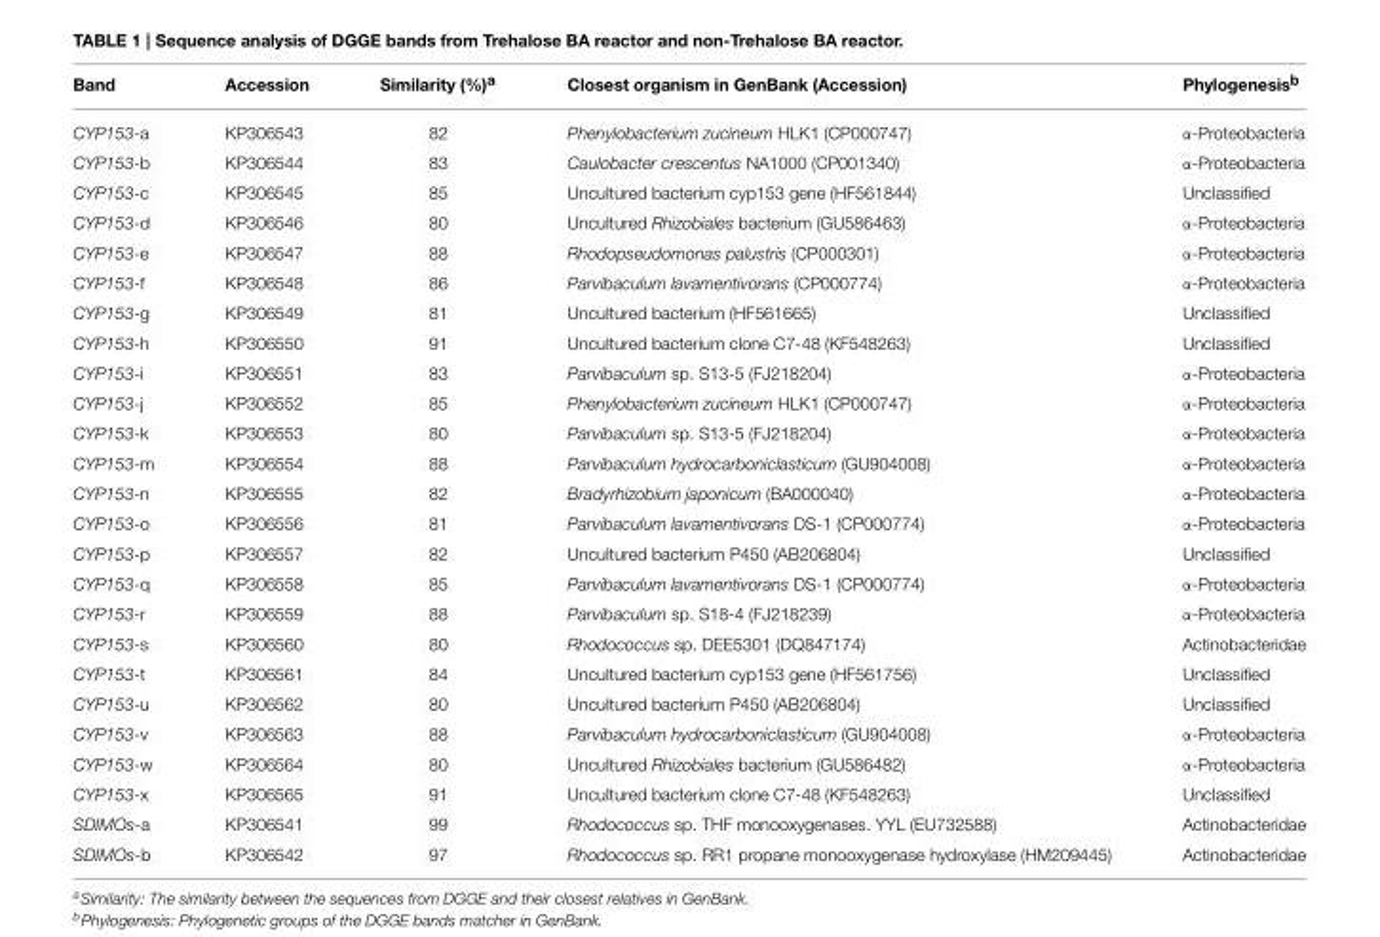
<table><thead><tr><td>Band</td><td>Accession</td><td>Similarity (%)<sup>a</sup></td><td>Closest organism in GenBank (Accession)</td><td>Phylogenesis<sup>b</sup></td></tr></thead><tbody><tr><td>CYP153-a</td><td>KP306543</td><td>82</td><td>Phenylobacterium zucineum HLK1 (CP000747)</td><td>α-Proteobacteria</td></tr><tr><td>CYP153-b</td><td>KP306544</td><td>83</td><td>Caulobacter crescentus NA1000 (CP001340)</td><td>α-Proteobacteria</td></tr><tr><td>CYP153-c</td><td>KP306545</td><td>85</td><td>Uncultured bacterium cyp153 gene (HF561844)</td><td>Unclassified</td></tr><tr><td>CYP153-d</td><td>KP306546</td><td>80</td><td>Uncultured Rhizobiales bacterium (GU586463)</td><td>α-Proteobacteria</td></tr><tr><td>CYP153-e</td><td>KP306547</td><td>88</td><td>Rhodopseudomonas palustris (CP000301)</td><td>α-Proteobacteria</td></tr><tr><td>CYP153-f</td><td>KP306548</td><td>86</td><td>Parvibaculum lavamentivorans (CP000774)</td><td>α-Proteobacteria</td></tr><tr><td>CYP153-g</td><td>KP306549</td><td>81</td><td>Uncultured bacterium (HF561665)</td><td>Unclassified</td></tr><tr><td>CYP153-h</td><td>KP306550</td><td>91</td><td>Uncultured bacterium clone C7-48 (KF548263)</td><td>Unclassified</td></tr><tr><td>CYP153-i</td><td>KP306551</td><td>83</td><td>Parvibaculum sp. S13-5 (FJ218204)</td><td>α-Proteobacteria</td></tr><tr><td>CYP153-j</td><td>KP306552</td><td>85</td><td>Phenylobacterium zucineum HLK1 (CP000747)</td><td>α-Proteobacteria</td></tr><tr><td>CYP153-k</td><td>KP306553</td><td>80</td><td>Parvibaculum sp. S13-5 (FJ218204)</td><td>α-Proteobacteria</td></tr><tr><td>CYP153-m</td><td>KP306554</td><td>88</td><td>Parvibaculum hydrocarboniclasticum (GU904008)</td><td>α-Proteobacteria</td></tr><tr><td>CYP153-n</td><td>KP306555</td><td>82</td><td>Bradyrhizobium japonicum (BA000040)</td><td>α-Proteobacteria</td></tr><tr><td>CYP153-o</td><td>KP306556</td><td>81</td><td>Parvibaculum lavamentivorans DS-1 (CP000774)</td><td>α-Proteobacteria</td></tr><tr><td>CYP153-p</td><td>KP306557</td><td>82</td><td>Uncultured bacterium P450 (AB206804)</td><td>Unclassified</td></tr><tr><td>CYP153-q</td><td>KP306558</td><td>85</td><td>Parvibaculum lavamentivorans DS-1 (CP000774)</td><td>α-Proteobacteria</td></tr><tr><td>CYP153-r</td><td>KP306559</td><td>88</td><td>Parvibaculum sp. S18-4 (FJ218239)</td><td>α-Proteobacteria</td></tr><tr><td>CYP153-s</td><td>KP306560</td><td>80</td><td>Rhodococcus sp. DEE5301 (DQ847174)</td><td>Actinobacteridae</td></tr><tr><td>CYP153-t</td><td>KP306561</td><td>84</td><td>Uncultured bacterium cyp153 gene (HF561756)</td><td>Unclassified</td></tr><tr><td>CYP153-u</td><td>KP306562</td><td>80</td><td>Uncultured bacterium P450 (AB206804)</td><td>Unclassified</td></tr><tr><td>CYP153-v</td><td>KP306563</td><td>88</td><td>Parvibaculum hydrocarboniclasticum (GU904008)</td><td>α-Proteobacteria</td></tr><tr><td>CYP153-w</td><td>KP306564</td><td>80</td><td>Uncultured Rhizobiales bacterium (GU586482)</td><td>α-Proteobacteria</td></tr><tr><td>CYP153-x</td><td>KP306565</td><td>91</td><td>Uncultured bacterium clone C7-48 (KF548263)</td><td>Unclassified</td></tr><tr><td>SDIMOs-a</td><td>KP306541</td><td>99</td><td>Rhodococcus sp. THF monooxygenases. YYL (EU732588)</td><td>Actinobacteridae</td></tr><tr><td>SDIMOs-b</td><td>KP306542</td><td>97</td><td>Rhodococcus sp. RR1 propane monooxygenase hydroxylase (HM209445)</td><td>Actinobacteridae</td></tr></tbody></table>